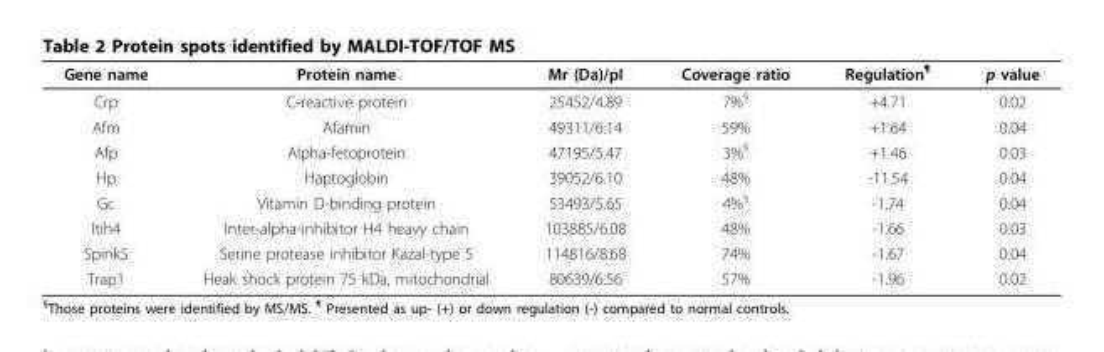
<table><thead><tr><td>Gene name</td><td>Protein name</td><td>Mr (Da)/pI</td><td>Coverage ratio</td><td>Regulation<sup>¶</sup></td><td>p value</td></tr></thead><tbody><tr><td>Crp</td><td>C-reactive protein</td><td>25452/4.89</td><td>7%<sup>§</sup></td><td>+4.71</td><td>0.02</td></tr><tr><td>Afm</td><td>Afamin</td><td>49311/6.14</td><td>59%</td><td>+1.64</td><td>0.04</td></tr><tr><td>Afp</td><td>Alpha-fetoprotein</td><td>47195/5.47</td><td>3%<sup>§</sup></td><td>+1.46</td><td>0.03</td></tr><tr><td>Hp</td><td>Haptoglobin</td><td>39052/6.10</td><td>48%</td><td>-11.54</td><td>0.04</td></tr><tr><td>Gc</td><td>Vitamin D-binding protein</td><td>53493/5.65</td><td>4%<sup>§</sup></td><td>-1.74</td><td>0.04</td></tr><tr><td>Itih4</td><td>Inter-alpha-inhibitor H4 heavy chain</td><td>103885/6.08</td><td>48%</td><td>-1.66</td><td>0.03</td></tr><tr><td>Spink5</td><td>Serine protease inhibitor Kazal-type 5</td><td>114816/8.68</td><td>74%</td><td>-1.67</td><td>0.04</td></tr><tr><td>Trap1</td><td>Heak shock protein 75 kDa, mitochondrial</td><td>80639/6.56</td><td>57%</td><td>-1.96</td><td>0.02</td></tr></tbody></table>